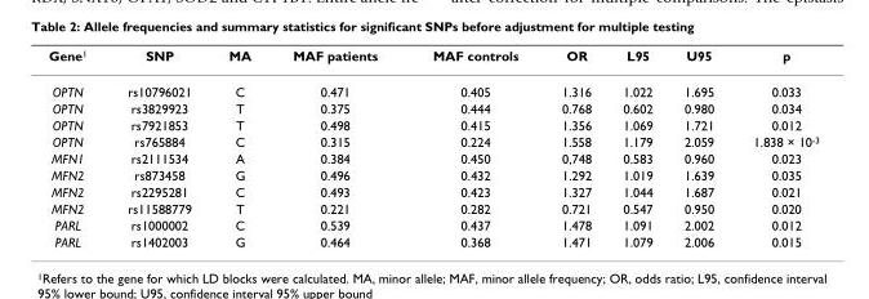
<table><thead><tr><td>Gene<sup>1</sup></td><td>SNP</td><td>MA</td><td>MAF patients</td><td>MAF controls</td><td>OR</td><td>L95</td><td>U95</td><td>p</td></tr></thead><tbody><tr><td>OPTN</td><td>rs10796021</td><td>C</td><td>0.471</td><td>0.405</td><td>1.316</td><td>1.022</td><td>1.695</td><td>0.033</td></tr><tr><td>OPTN</td><td>rs3829923</td><td>T</td><td>0.375</td><td>0.444</td><td>0.768</td><td>0.602</td><td>0.980</td><td>0.034</td></tr><tr><td>OPTN</td><td>rs7921853</td><td>T</td><td>0.498</td><td>0.415</td><td>1.356</td><td>1.069</td><td>1.721</td><td>0.012</td></tr><tr><td>OPTN</td><td>rs765884</td><td>C</td><td>0.315</td><td>0.224</td><td>1.558</td><td>1.179</td><td>2.059</td><td>1.838 × 10<sup>-3</sup></td></tr><tr><td>MFN1</td><td>rs2111534</td><td>A</td><td>0.384</td><td>0.450</td><td>0,748</td><td>0.583</td><td>0.960</td><td>0.023</td></tr><tr><td>MFN2</td><td>rs873458</td><td>G</td><td>0.496</td><td>0.432</td><td>1.292</td><td>1.019</td><td>1.639</td><td>0.035</td></tr><tr><td>MFN2</td><td>rs2295281</td><td>C</td><td>0.493</td><td>0.423</td><td>1.327</td><td>1.044</td><td>1.687</td><td>0.021</td></tr><tr><td>MFN2</td><td>rs11588779</td><td>T</td><td>0.221</td><td>0.282</td><td>0.721</td><td>0.547</td><td>0.950</td><td>0.020</td></tr><tr><td>PARL</td><td>rs1000002</td><td>C</td><td>0.539</td><td>0.437</td><td>1.478</td><td>1.091</td><td>2.002</td><td>0.012</td></tr><tr><td>PARL</td><td>rs1402003</td><td>G</td><td>0.464</td><td>0.368</td><td>1.471</td><td>1.079</td><td>2.006</td><td>0.015</td></tr></tbody></table>